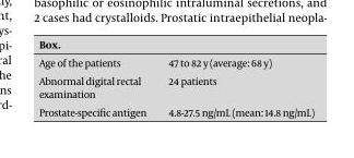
<table><thead><tr><td>Box.</td><td></td></tr></thead><tbody><tr><td>Age of the patients</td><td>47 to 82 y (average: 68 y)</td></tr><tr><td>Abnormal digital rectal examination</td><td>24 patients</td></tr><tr><td>Prostate-specific antigen</td><td>4.8-27.5 ng/mL (mean: 14.8 ng/mL)</td></tr></tbody></table>